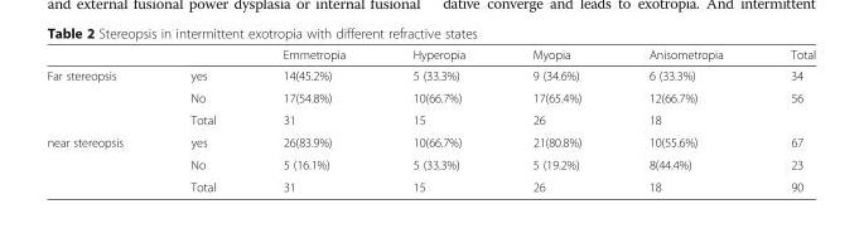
<table><thead><tr><td></td><td></td><td>Emmetropia</td><td>Hyperopia</td><td>Myopia</td><td>Anisometropia</td><td>Total</td></tr></thead><tbody><tr><td rowspan="3">Far stereopsis</td><td>yes</td><td>14(45.2%)</td><td>5 (33.3%)</td><td>9 (34.6%)</td><td>6 (33.3%)</td><td>34</td></tr><tr><td>No</td><td>17(54.8%)</td><td>10(66.7%)</td><td>17(65.4%)</td><td>12(66.7%)</td><td>56</td></tr><tr><td>Total</td><td>31</td><td>15</td><td>26</td><td>18</td><td></td></tr><tr><td rowspan="3">near stereopsis</td><td>yes</td><td>26(83.9%)</td><td>10(66.7%)</td><td>21(80.8%)</td><td>10(55.6%)</td><td>67</td></tr><tr><td>No</td><td>5 (16.1%)</td><td>5 (33.3%)</td><td>5 (19.2%)</td><td>8(44.4%)</td><td>23</td></tr><tr><td>Total</td><td>31</td><td>15</td><td>26</td><td>18</td><td>90</td></tr></tbody></table>